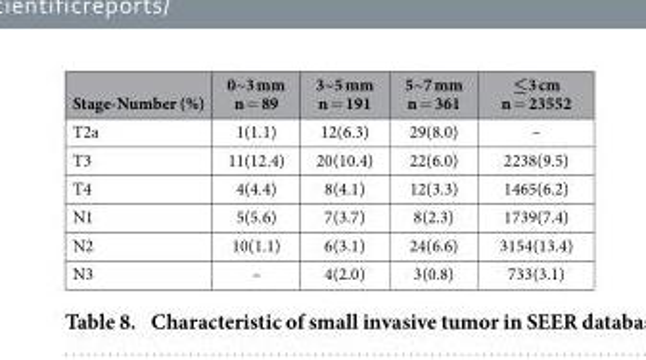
<table><thead><tr><td>Stage-Number (%)</td><td>0~3 mm n = 89</td><td>3~5 mm n = 191</td><td>5~7 mm n = 361</td><td>≤3 cm n = 23552</td></tr></thead><tbody><tr><td>T2a</td><td>1(1.1)</td><td>12(6.3)</td><td>29(8.0)</td><td>–</td></tr><tr><td>T3</td><td>11(12.4)</td><td>20(10.4)</td><td>22(6.0)</td><td>2238(9.5)</td></tr><tr><td>T4</td><td>4(4.4)</td><td>8(4.1)</td><td>12(3.3)</td><td>1465(6.2)</td></tr><tr><td>N1</td><td>5(5.6)</td><td>7(3.7)</td><td>8(2.3)</td><td>1739(7.4)</td></tr><tr><td>N2</td><td>10(1.1)</td><td>6(3.1)</td><td>24(6.6)</td><td>3154(13.4)</td></tr><tr><td>N3</td><td>–</td><td>4(2.0)</td><td>3(0.8)</td><td>733(3.1)</td></tr></tbody></table>